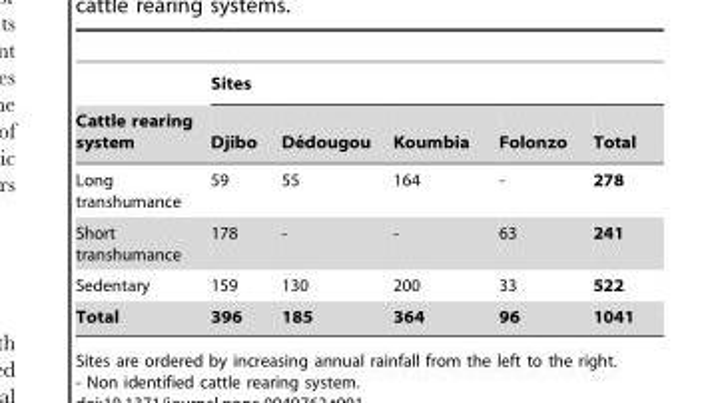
<table><thead><tr><td rowspan="2">Cattle rearing system</td><td colspan="5">Sites</td></tr><tr><td>Djibo</td><td>De´dougou</td><td>Koumbia</td><td>Folonzo</td><td>Total</td></tr></thead><tbody><tr><td>Long transhumance</td><td>59</td><td>55</td><td>164</td><td>-</td><td>278</td></tr><tr><td>Short transhumance</td><td>178</td><td>-</td><td>-</td><td>63</td><td>241</td></tr><tr><td>Sedentary</td><td>159</td><td>130</td><td>200</td><td>33</td><td>522</td></tr><tr><td>Total</td><td>396</td><td>185</td><td>364</td><td>96</td><td>1041</td></tr></tbody></table>